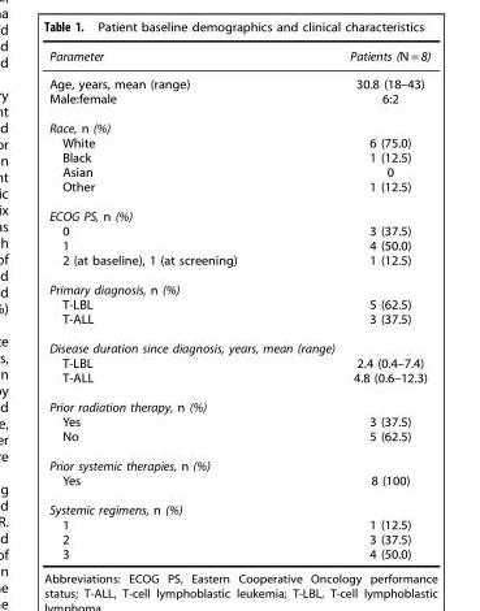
<table><thead><tr><td>Parameter</td><td>Patients (N = 8)</td></tr></thead><tbody><tr><td>Age, years, mean (range)</td><td>30.8 (18–43)</td></tr><tr><td>Male:female</td><td>6:2</td></tr><tr><td colspan="2">Race, n (%)</td></tr><tr><td>White</td><td>6 (75.0)</td></tr><tr><td>Black</td><td>1 (12.5)</td></tr><tr><td>Asian</td><td>0</td></tr><tr><td>Other</td><td>1 (12.5)</td></tr><tr><td colspan="2">ECOG PS, n (%)</td></tr><tr><td>0</td><td>3 (37.5)</td></tr><tr><td>1</td><td>4 (50.0)</td></tr><tr><td>2 (at baseline), 1 (at screening)</td><td>1 (12.5)</td></tr><tr><td colspan="2">Primary diagnosis, n (%)</td></tr><tr><td>T-LBL</td><td>5 (62.5)</td></tr><tr><td>T-ALL</td><td>3 (37.5)</td></tr><tr><td colspan="2">Disease duration since diagnosis, years, mean (range)</td></tr><tr><td>T-LBL</td><td>2.4 (0.4–7.4)</td></tr><tr><td>T-ALL</td><td>4.8 (0.6–12.3)</td></tr><tr><td colspan="2">Prior radiation therapy, n (%)</td></tr><tr><td>Yes</td><td>3 (37.5)</td></tr><tr><td>No</td><td>5 (62.5)</td></tr><tr><td colspan="2">Prior systemic therapies, n (%)</td></tr><tr><td>Yes</td><td>8 (100)</td></tr><tr><td colspan="2">Systemic regimens, n (%)</td></tr><tr><td>1</td><td>1 (12.5)</td></tr><tr><td>2</td><td>3 (37.5)</td></tr><tr><td>3</td><td>4 (50.0)</td></tr></tbody></table>